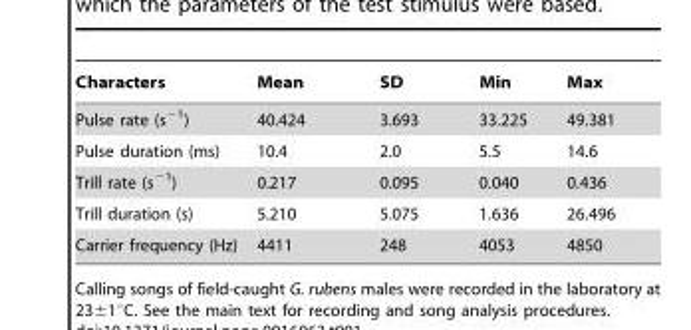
<table><thead><tr><td>Characters</td><td>Mean</td><td>SD</td><td>Min</td><td>Max</td></tr></thead><tbody><tr><td>Pulse rate (s<sup>−1</sup>)</td><td>40.424</td><td>3.693</td><td>33.225</td><td>49.381</td></tr><tr><td>Pulse duration (ms)</td><td>10.4</td><td>2.0</td><td>5.5</td><td>14.6</td></tr><tr><td>Trill rate (s<sup>−1</sup>)</td><td>0.217</td><td>0.095</td><td>0.040</td><td>0.436</td></tr><tr><td>Trill duration (s)</td><td>5.210</td><td>5.075</td><td>1.636</td><td>26.496</td></tr><tr><td>Carrier frequency (Hz)</td><td>4411</td><td>248</td><td>4053</td><td>4850</td></tr></tbody></table>